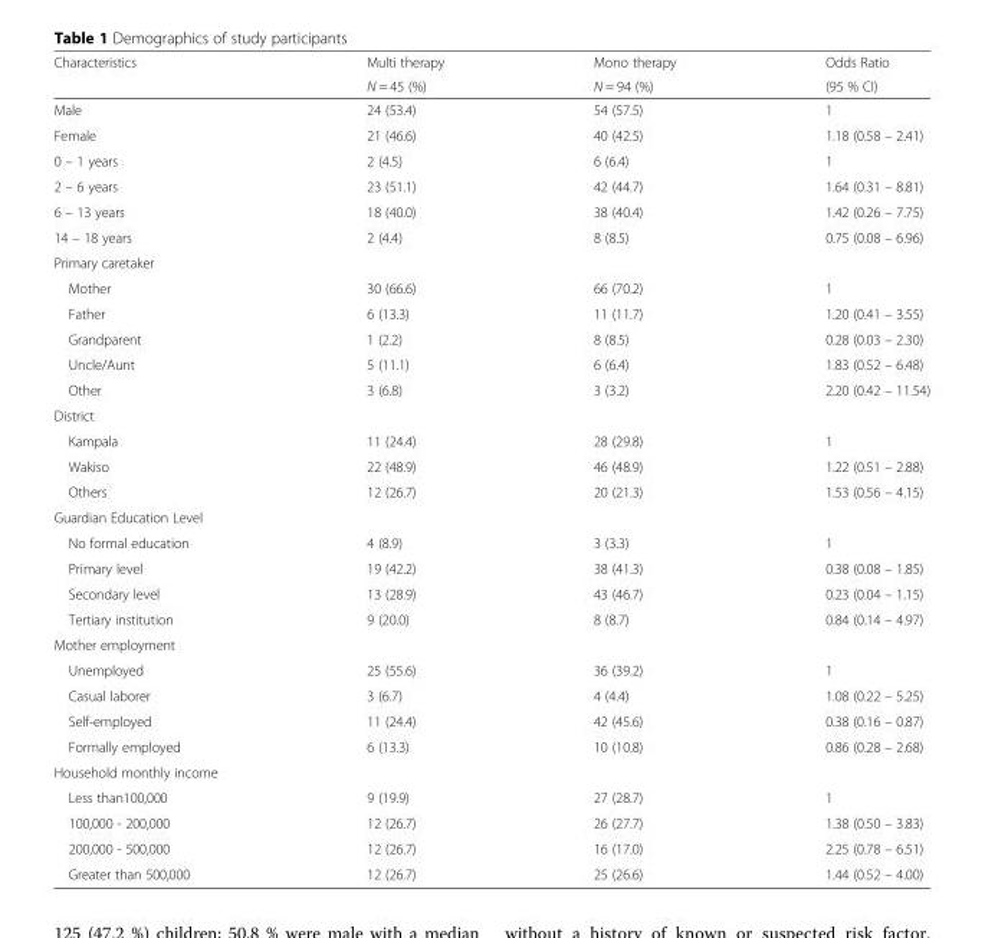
<table><thead><tr><td rowspan="2">Characteristics</td><td rowspan="2">Multi therapy N = 45 (%)</td><td rowspan="2">Mono therapy N = 94 (%)</td><td rowspan="2">Odds Ratio (95 % CI)</td></tr><tr></tr></thead><tbody><tr><td>Male</td><td>24 (53.4)</td><td>54 (57.5)</td><td>1</td></tr><tr><td>Female</td><td>21 (46.6)</td><td>40 (42.5)</td><td>1.18 (0.58 – 2.41)</td></tr><tr><td>0 – 1 years</td><td>2 (4.5)</td><td>6 (6.4)</td><td>1</td></tr><tr><td>2 – 6 years</td><td>23 (51.1)</td><td>42 (44.7)</td><td>1.64 (0.31 – 8.81)</td></tr><tr><td>6 – 13 years</td><td>18 (40.0)</td><td>38 (40.4)</td><td>1.42 (0.26 – 7.75)</td></tr><tr><td>14 – 18 years</td><td>2 (4.4)</td><td>8 (8.5)</td><td>0.75 (0.08 – 6.96)</td></tr><tr><td colspan="4">Primary caretaker</td></tr><tr><td>Mother</td><td>30 (66.6)</td><td>66 (70.2)</td><td>1</td></tr><tr><td>Father</td><td>6 (13.3)</td><td>11 (11.7)</td><td>1.20 (0.41 – 3.55)</td></tr><tr><td>Grandparent</td><td>1 (2.2)</td><td>8 (8.5)</td><td>0.28 (0.03 – 2.30)</td></tr><tr><td>Uncle/Aunt</td><td>5 (11.1)</td><td>6 (6.4)</td><td>1.83 (0.52 – 6.48)</td></tr><tr><td>Other</td><td>3 (6.8)</td><td>3 (3.2)</td><td>2.20 (0.42 – 11.54)</td></tr><tr><td colspan="4">District</td></tr><tr><td>Kampala</td><td>11 (24.4)</td><td>28 (29.8)</td><td>1</td></tr><tr><td>Wakiso</td><td>22 (48.9)</td><td>46 (48.9)</td><td>1.22 (0.51 – 2.88)</td></tr><tr><td>Others</td><td>12 (26.7)</td><td>20 (21.3)</td><td>1.53 (0.56 – 4.15)</td></tr><tr><td colspan="4">Guardian Education Level</td></tr><tr><td>No formal education</td><td>4 (8.9)</td><td>3 (3.3)</td><td>1</td></tr><tr><td>Primary level</td><td>19 (42.2)</td><td>38 (41.3)</td><td>0.38 (0.08 – 1.85)</td></tr><tr><td>Secondary level</td><td>13 (28.9)</td><td>43 (46.7)</td><td>0.23 (0.04 – 1.15)</td></tr><tr><td>Tertiary institution</td><td>9 (20.0)</td><td>8 (8.7)</td><td>0.84 (0.14 – 4.97)</td></tr><tr><td colspan="4">Mother employment</td></tr><tr><td>Unemployed</td><td>25 (55.6)</td><td>36 (39.2)</td><td>1</td></tr><tr><td>Casual laborer</td><td>3 (6.7)</td><td>4 (4.4)</td><td>1.08 (0.22 – 5.25)</td></tr><tr><td>Self-employed</td><td>11 (24.4)</td><td>42 (45.6)</td><td>0.38 (0.16 – 0.87)</td></tr><tr><td>Formally employed</td><td>6 (13.3)</td><td>10 (10.8)</td><td>0.86 (0.28 – 2.68)</td></tr><tr><td colspan="4">Household monthly income</td></tr><tr><td>Less than100,000</td><td>9 (19.9)</td><td>27 (28.7)</td><td>1</td></tr><tr><td>100,000 - 200,000</td><td>12 (26.7)</td><td>26 (27.7)</td><td>1.38 (0.50 – 3.83)</td></tr><tr><td>200,000 - 500,000</td><td>12 (26.7)</td><td>16 (17.0)</td><td>2.25 (0.78 – 6.51)</td></tr><tr><td>Greater than 500,000</td><td>12 (26.7)</td><td>25 (26.6)</td><td>1.44 (0.52 – 4.00)</td></tr></tbody></table>